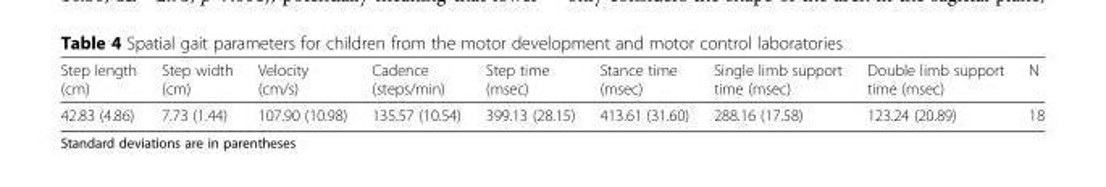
<table><thead><tr><td>Step length (cm)</td><td>Step width (cm)</td><td>Velocity (cm/s)</td><td>Cadence (steps/min)</td><td>Step time (msec)</td><td>Stance time (msec)</td><td>Single limb support time (msec)</td><td>Double limb support time (msec)</td><td>N</td></tr></thead><tbody><tr><td>42.83 (4.86)</td><td>7.73 (1.44)</td><td>107.90 (10.98)</td><td>135.57 (10.54)</td><td>399.13 (28.15)</td><td>413.61 (31.60)</td><td>288.16 (17.58)</td><td>123.24 (20.89)</td><td>18</td></tr></tbody></table>